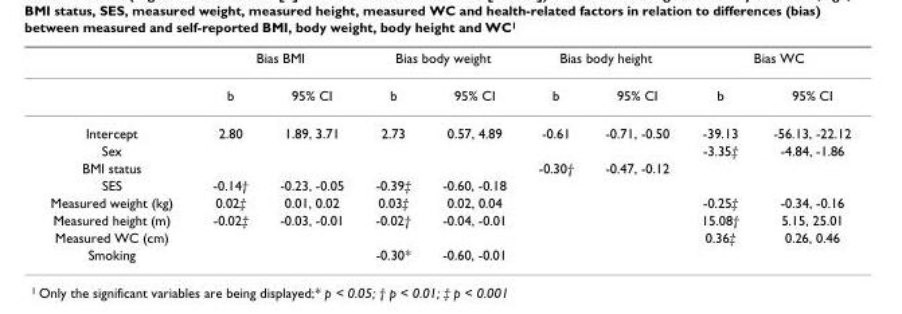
<table><thead><tr><td rowspan="2"></td><td colspan="2">Bias BMI</td><td colspan="2">Bias body weight</td><td colspan="2">Bias body height</td><td colspan="2">Bias WC</td></tr><tr><td>b</td><td>95% CI</td><td>b</td><td>95% CI</td><td>b</td><td>95% CI</td><td>b</td><td>95% CI</td></tr></thead><tbody><tr><td>Intercept</td><td>2.80</td><td>1.89, 3.71</td><td>2.73</td><td>0.57, 4.89</td><td>-0.61</td><td>-0.71, -0.50</td><td>-39.13</td><td>-56.13, -22.12</td></tr><tr><td>Sex</td><td></td><td></td><td></td><td></td><td></td><td></td><td>-3.35‡</td><td>-4.84, -1.86</td></tr><tr><td>BMI status</td><td></td><td></td><td></td><td></td><td>-0.30†</td><td>-0.47, -0.12</td><td></td><td></td></tr><tr><td>SES</td><td>-0.14†</td><td>-0.23, -0.05</td><td>-0.39‡</td><td>-0.60, -0.18</td><td></td><td></td><td></td><td></td></tr><tr><td>Measured weight (kg)</td><td>0.02‡</td><td>0.01, 0.02</td><td>0.03‡</td><td>0.02, 0.04</td><td></td><td></td><td>-0.25‡</td><td>-0.34, -0.16</td></tr><tr><td>Measured height (m)</td><td>-0.02‡</td><td>-0.03, -0.01</td><td>-0.02†</td><td>-0.04, -0.01</td><td></td><td></td><td>15.08†</td><td>5.15, 25.01</td></tr><tr><td>Measured WC (cm)</td><td></td><td></td><td></td><td></td><td></td><td></td><td>0.36‡</td><td>0.26, 0.46</td></tr><tr><td>Smoking</td><td></td><td></td><td>-0.30*</td><td>-0.60, -0.01</td><td></td><td></td><td></td><td></td></tr></tbody></table>